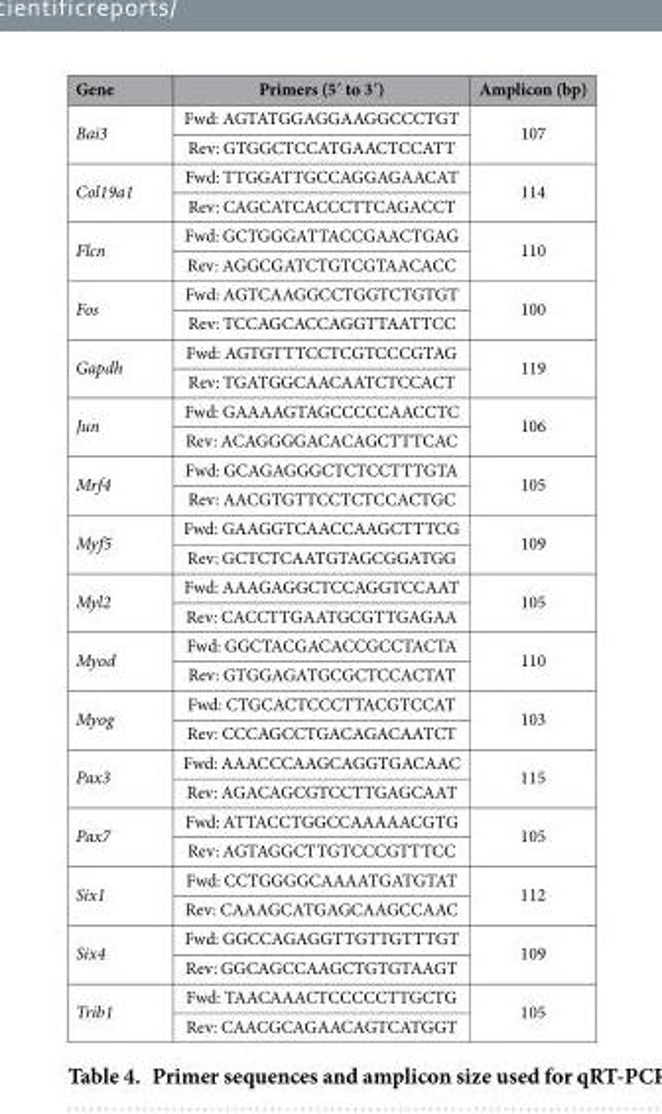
<table><thead><tr><td>Gene</td><td>Primers (5′ to 3′)</td><td>Amplicon (bp)</td></tr></thead><tbody><tr><td rowspan="2">Bai3</td><td>Fwd: AGTATGGAGGAAGGCCCTGT</td><td rowspan="2">107</td></tr><tr><td>Rev: GTGGCTCCATGAACTCCATT</td></tr><tr><td rowspan="2">Col19a1</td><td>Fwd: TTGGATTGCCAGGAGAACAT</td><td rowspan="2">114</td></tr><tr><td>Rev: CAGCATCACCCTTCAGACCT</td></tr><tr><td rowspan="2">Flcn</td><td>Fwd: GCTGGGATTACCGAACTGAG</td><td rowspan="2">110</td></tr><tr><td>Rev: AGGCGATCTGTCGTAACACC</td></tr><tr><td rowspan="2">Fos</td><td>Fwd: AGTCAAGGCCTGGTCTGTGT</td><td rowspan="2">100</td></tr><tr><td>Rev: TCCAGCACCAGGTTAATTCC</td></tr><tr><td rowspan="2">Gapdh</td><td>Fwd: AGTGTTTCCTCGTCCCGTAG</td><td rowspan="2">119</td></tr><tr><td>Rev: TGATGGCAACAATCTCCACT</td></tr><tr><td rowspan="2">Jun</td><td>Fwd: GAAAAGTAGCCCCCAACCTC</td><td rowspan="2">106</td></tr><tr><td>Rev: ACAGGGGACACAGCTTTCAC</td></tr><tr><td rowspan="2">Mrf4</td><td>Fwd: GCAGAGGGCTCTCCTTTGTA</td><td rowspan="2">105</td></tr><tr><td>Rev: AACGTGTTCCTCTCCACTGC</td></tr><tr><td rowspan="2">Myf5</td><td>Fwd: GAAGGTCAACCAAGCTTTCG</td><td rowspan="2">109</td></tr><tr><td>Rev: GCTCTCAATGTAGCGGATGG</td></tr><tr><td rowspan="2">Myl2</td><td>Fwd: AAAGAGGCTCCAGGTCCAAT</td><td rowspan="2">105</td></tr><tr><td>Rev: CACCTTGAATGCGTTGAGAA</td></tr><tr><td rowspan="2">Myod</td><td>Fwd: GGCTACGACACCGCCTACTA</td><td rowspan="2">110</td></tr><tr><td>Rev: GTGGAGATGCGCTCCACTAT</td></tr><tr><td rowspan="2">Myog</td><td>Fwd: CTGCACTCCCTTACGTCCAT</td><td rowspan="2">103</td></tr><tr><td>Rev: CCCAGCCTGACAGACAATCT</td></tr><tr><td rowspan="2">Pax3</td><td>Fwd: AAACCCAAGCAGGTGACAAC</td><td rowspan="2">115</td></tr><tr><td>Rev: AGACAGCGTCCTTGAGCAAT</td></tr><tr><td rowspan="2">Pax7</td><td>Fwd: ATTACCTGGCCAAAAACGTG</td><td rowspan="2">105</td></tr><tr><td>Rev: AGTAGGCTTGTCCCGTTTCC</td></tr><tr><td rowspan="2">Six1</td><td>Fwd: CCTGGGGCAAAATGATGTAT</td><td rowspan="2">112</td></tr><tr><td>Rev: CAAAGCATGAGCAAGCCAAC</td></tr><tr><td rowspan="2">Six4</td><td>Fwd: GGCCAGAGGTTGTTGTTTGT</td><td rowspan="2">109</td></tr><tr><td>Rev: GGCAGCCAAGCTGTGTAAGT</td></tr><tr><td rowspan="2">Trib1</td><td>Fwd: TAACAAACTCCCCCTTGCTG</td><td rowspan="2">105</td></tr><tr><td>Rev: CAACGCAGAACAGTCATGGT</td></tr></tbody></table>